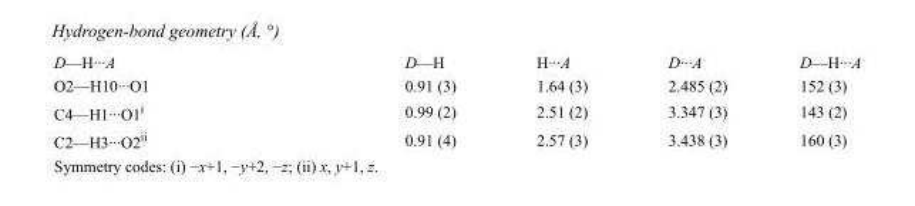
<table><tbody><tr><td>D—H···A</td><td>D—H</td><td>H···A</td><td>D···A</td><td>D—H···A</td></tr><tr><td>O2—H10···O1</td><td>0.91 (3)</td><td>1.64 (3)</td><td>2.485 (2)</td><td>152 (3)</td></tr><tr><td>C4—H1···O1<sup>i</sup></td><td>0.99 (2)</td><td>2.51 (2)</td><td>3.347 (3)</td><td>143 (2)</td></tr><tr><td>C2—H3···O2<sup>ii</sup></td><td>0.91 (4)</td><td>2.57 (3)</td><td>3.438 (3)</td><td>160 (3)</td></tr></tbody></table>